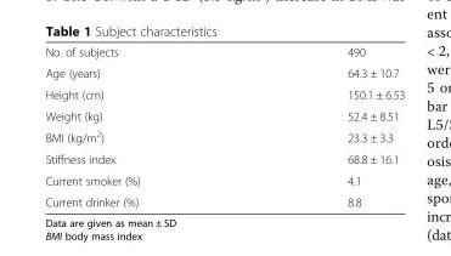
<table><tbody><tr><td>No. of subjects</td><td>490</td></tr><tr><td>Age (years)</td><td>64.3 ± 10.7</td></tr><tr><td>Height (cm)</td><td>150.1 ± 6.53</td></tr><tr><td>Weight (kg)</td><td>52.4 ± 8.51</td></tr><tr><td>BMI (kg/m<sup>2</sup>)</td><td>23.3 ± 3.3</td></tr><tr><td>Stiffness index</td><td>68.8 ± 16.1</td></tr><tr><td>Current smoker (%)</td><td>4.1</td></tr><tr><td>Current drinker (%)</td><td>8.8</td></tr></tbody></table>